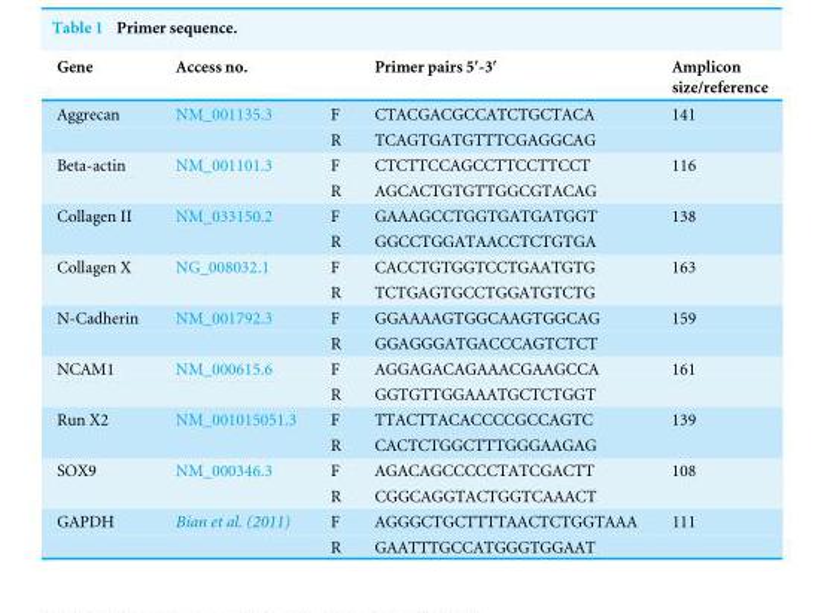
<table><thead><tr><td>Gene</td><td>Access no.</td><td></td><td>Primer pairs 5′-3′</td><td>Amplicon size/reference</td></tr></thead><tbody><tr><td rowspan="2">Aggrecan</td><td>NM_001135.3</td><td>F</td><td>CTACGACGCCATCTGCTACA</td><td>141</td></tr><tr><td></td><td>R</td><td>TCAGTGATGTTTCGAGGCAG</td><td></td></tr><tr><td rowspan="2">Beta-actin</td><td>NM_001101.3</td><td>F</td><td>CTCTTCCAGCCTTCCTTCCT</td><td>116</td></tr><tr><td></td><td>R</td><td>AGCACTGTGTTGGCGTACAG</td><td></td></tr><tr><td rowspan="2">Collagen II</td><td>NM_033150.2</td><td>F</td><td>GAAAGCCTGGTGATGATGGT</td><td>138</td></tr><tr><td></td><td>R</td><td>GGCCTGGATAACCTCTGTGA</td><td></td></tr><tr><td rowspan="2">Collagen X</td><td>NG_008032.1</td><td>F</td><td>CACCTGTGGTCCTGAATGTG</td><td>163</td></tr><tr><td></td><td>R</td><td>TCTGAGTGCCTGGATGTCTG</td><td></td></tr><tr><td rowspan="2">N-Cadherin</td><td>NM_001792.3</td><td>F</td><td>GGAAAAGTGGCAAGTGGCAG</td><td>159</td></tr><tr><td></td><td>R</td><td>GGAGGGATGACCCAGTCTCT</td><td></td></tr><tr><td rowspan="2">NCAM1</td><td>NM_000615.6</td><td>F</td><td>AGGAGACAGAAACGAAGCCA</td><td>161</td></tr><tr><td></td><td>R</td><td>GGTGTTGGAAATGCTCTGGT</td><td></td></tr><tr><td rowspan="2">Run X2</td><td>NM_001015051.3</td><td>F</td><td>TTACTTACACCCCGCCAGTC</td><td>139</td></tr><tr><td></td><td>R</td><td>CACTCTGGCTTTGGGAAGAG</td><td></td></tr><tr><td rowspan="2">SOX9</td><td>NM_000346.3</td><td>F</td><td>AGACAGCCCCCTATCGACTT</td><td>108</td></tr><tr><td></td><td>R</td><td>CGGCAGGTACTGGTCAAACT</td><td></td></tr><tr><td rowspan="2">GAPDH</td><td>Bian et al. (2011)</td><td>F</td><td>AGGGCTGCTTTTAACTCTGGTAAA</td><td>111</td></tr><tr><td></td><td>R</td><td>GAATTTGCCATGGGTGGAAT</td><td></td></tr></tbody></table>